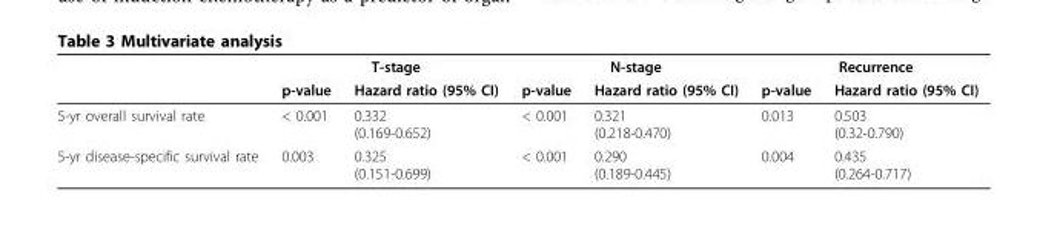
<table><thead><tr><td rowspan="2"></td><td colspan="2">T-stage</td><td colspan="2">N-stage</td><td colspan="2">Recurrence</td></tr><tr><td>p-value</td><td>Hazard ratio (95% CI)</td><td>p-value</td><td>Hazard ratio (95% CI)</td><td>p-value</td><td>Hazard ratio (95% CI)</td></tr></thead><tbody><tr><td>5-yr overall survival rate</td><td>&lt; 0.001</td><td>0.332 (0.169-0.652)</td><td>&lt; 0.001</td><td>0.321 (0.218-0.470)</td><td>0.013</td><td>0.503 (0.32-0.790)</td></tr><tr><td>5-yr disease-specific survival rate</td><td>0.003</td><td>0.325 (0.151-0.699)</td><td>&lt; 0.001</td><td>0.290 (0.189-0.445)</td><td>0.004</td><td>0.435 (0.264-0.717)</td></tr></tbody></table>